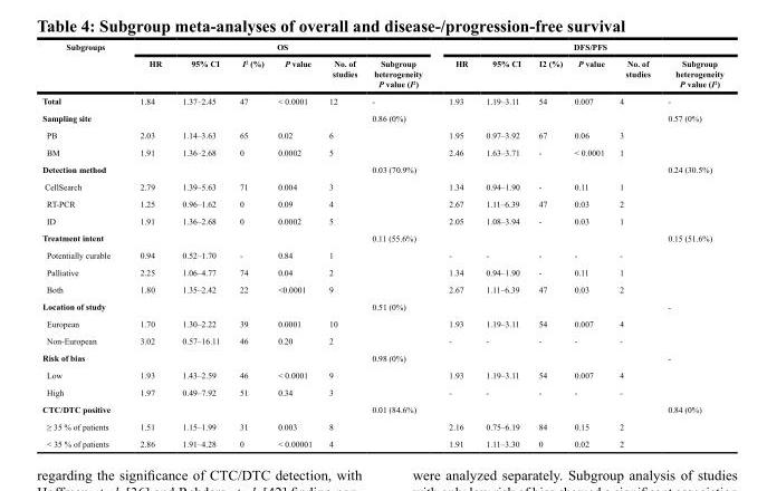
<table><thead><tr><td rowspan="2">Subgroups</td><td colspan="6">OS</td><td colspan="6">DFS/PFS</td></tr><tr><td>HR</td><td>95% CI</td><td>I<sup>2</sup> (%)</td><td>P value</td><td>No. of studies</td><td>Subgroup heterogeneity P value (I<sup>2</sup>)</td><td>HR</td><td>95% CI</td><td>I2 (%)</td><td>P value</td><td>No. of studies</td><td>Subgroup heterogeneity P value (I<sup>2</sup>)</td></tr></thead><tbody><tr><td>Total</td><td>1.84</td><td>1.37–2.45</td><td>47</td><td>&lt; 0.0001</td><td>12</td><td>-</td><td>1.93</td><td>1.19–3.11</td><td>54</td><td>0.007</td><td>4</td><td>-</td></tr><tr><td>Sampling site</td><td></td><td></td><td></td><td></td><td></td><td>0.86 (0%)</td><td></td><td></td><td></td><td></td><td></td><td>0.57 (0%)</td></tr><tr><td>PB</td><td>2.03</td><td>1.14–3.63</td><td>65</td><td>0.02</td><td>6</td><td></td><td>1.95</td><td>0.97–3.92</td><td>67</td><td>0.06</td><td>3</td><td></td></tr><tr><td>BM</td><td>1.91</td><td>1.36–2.68</td><td>0</td><td>0.0002</td><td>5</td><td></td><td>2.46</td><td>1.63–3.71</td><td>-</td><td>&lt; 0.0001</td><td>1</td><td></td></tr><tr><td>Detection method</td><td></td><td></td><td></td><td></td><td></td><td>0.03 (70.9%)</td><td></td><td></td><td></td><td></td><td></td><td>0.24 (30.5%)</td></tr><tr><td>CellSearch</td><td>2.79</td><td>1.39–5.63</td><td>71</td><td>0.004</td><td>3</td><td></td><td>1.34</td><td>0.94–1.90</td><td>-</td><td>0.11</td><td>1</td><td></td></tr><tr><td>RT-PCR</td><td>1.25</td><td>0.96–1.62</td><td>0</td><td>0.09</td><td>4</td><td></td><td>2.67</td><td>1.11–6.39</td><td>47</td><td>0.03</td><td>2</td><td></td></tr><tr><td>ID</td><td>1.91</td><td>1.36–2.68</td><td>0</td><td>0.0002</td><td>5</td><td></td><td>2.05</td><td>1.08–3.94</td><td>-</td><td>0.03</td><td>1</td><td></td></tr><tr><td>Treatment intent</td><td></td><td></td><td></td><td></td><td></td><td>0.11 (55.6%)</td><td></td><td></td><td></td><td></td><td></td><td>0.15 (51.6%)</td></tr><tr><td>Potentially curable</td><td>0.94</td><td>0.52–1.70</td><td>-</td><td>0.84</td><td>1</td><td></td><td>-</td><td>-</td><td>-</td><td>-</td><td>-</td><td></td></tr><tr><td>Palliative</td><td>2.25</td><td>1.06–4.77</td><td>74</td><td>0.04</td><td>2</td><td></td><td>1.34</td><td>0.94–1.90</td><td>-</td><td>0.11</td><td>1</td><td></td></tr><tr><td>Both</td><td>1.80</td><td>1.35–2.42</td><td>22</td><td>&lt;0.0001</td><td>9</td><td></td><td>2.67</td><td>1.11–6.39</td><td>47</td><td>0.03</td><td>2</td><td></td></tr><tr><td>Location of study</td><td></td><td></td><td></td><td></td><td></td><td>0.51 (0%)</td><td></td><td></td><td></td><td></td><td></td><td>-</td></tr><tr><td>European</td><td>1.70</td><td>1.30–2.22</td><td>39</td><td>0.0001</td><td>10</td><td></td><td>1.93</td><td>1.19–3.11</td><td>54</td><td>0.007</td><td>4</td><td></td></tr><tr><td>Non-European</td><td>3.02</td><td>0.57–16.11</td><td>46</td><td>0.20</td><td>2</td><td></td><td>-</td><td>-</td><td>-</td><td>-</td><td>-</td><td></td></tr><tr><td>Risk of bias</td><td></td><td></td><td></td><td></td><td></td><td>0.98 (0%)</td><td></td><td></td><td></td><td></td><td></td><td>-</td></tr><tr><td>Low</td><td>1.93</td><td>1.43–2.59</td><td>46</td><td>&lt; 0.0001</td><td>9</td><td></td><td>1.93</td><td>1.19–3.11</td><td>54</td><td>0.007</td><td>4</td><td></td></tr><tr><td>High</td><td>1.97</td><td>0.49–7.92</td><td>51</td><td>0.34</td><td>3</td><td></td><td>-</td><td>-</td><td>-</td><td>-</td><td>-</td><td></td></tr><tr><td>CTC/DTC positive</td><td></td><td></td><td></td><td></td><td></td><td>0.01 (84.6%)</td><td></td><td></td><td></td><td></td><td></td><td>0.84 (0%)</td></tr><tr><td>≥ 35 % of patients</td><td>1.51</td><td>1.15–1.99</td><td>31</td><td>0.003</td><td>8</td><td></td><td>2.16</td><td>0.75–6.19</td><td>84</td><td>0.15</td><td>2</td><td></td></tr><tr><td>&lt; 35 % of patients</td><td>2.86</td><td>1.91–4.28</td><td>0</td><td>&lt; 0.00001</td><td>4</td><td></td><td>1.91</td><td>1.11–3.30</td><td>0</td><td>0.02</td><td>2</td><td></td></tr></tbody></table>